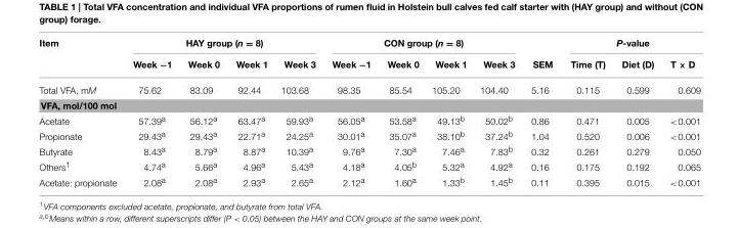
<table><thead><tr><td rowspan="2">Item</td><td colspan="4">HAY group (n = 8)</td><td colspan="4">CON group (n = 8)</td><td rowspan="2">SEM</td><td colspan="3">P-value</td></tr><tr><td>Week −1</td><td>Week 0</td><td>Week 1</td><td>Week 3</td><td>Week −1</td><td>Week 0</td><td>Week 1</td><td>Week 3</td><td>Time (T)</td><td>Diet (D)</td><td>T × D</td></tr></thead><tbody><tr><td>Total VFA, mM</td><td>75.62</td><td>83.09</td><td>92.44</td><td>103.68</td><td>98.35</td><td>85.54</td><td>105.20</td><td>104.40</td><td>5.16</td><td>0.115</td><td>0.599</td><td>0.609</td></tr><tr><td colspan="13">VFA, mol/100 mol</td></tr><tr><td>Acetate</td><td>57.39<sup>a</sup></td><td>56.12<sup>a</sup></td><td>63.47<sup>a</sup></td><td>59.93<sup>a</sup></td><td>56.05<sup>a</sup></td><td>53.58<sup>a</sup></td><td>49.13<sup>b</sup></td><td>50.02<sup>b</sup></td><td>0.86</td><td>0.471</td><td>0.005</td><td>&lt;0.001</td></tr><tr><td>Propionate</td><td>29.43<sup>a</sup></td><td>29.43<sup>a</sup></td><td>22.71<sup>a</sup></td><td>24.25<sup>a</sup></td><td>30.01<sup>a</sup></td><td>35.07<sup>a</sup></td><td>38.10<sup>b</sup></td><td>37.24<sup>b</sup></td><td>1.04</td><td>0.520</td><td>0.006</td><td>&lt;0.001</td></tr><tr><td>Butyrate</td><td>8.43<sup>a</sup></td><td>8.79<sup>a</sup></td><td>8.87<sup>a</sup></td><td>10.39<sup>a</sup></td><td>9.76<sup>a</sup></td><td>7.30<sup>a</sup></td><td>7.46<sup>a</sup></td><td>7.83<sup>b</sup></td><td>0.32</td><td>0.261</td><td>0.279</td><td>0.050</td></tr><tr><td>Others<sup>1</sup></td><td>4.74<sup>a</sup></td><td>5.66<sup>a</sup></td><td>4.96<sup>a</sup></td><td>5.43<sup>a</sup></td><td>4.18<sup>a</sup></td><td>4.05<sup>b</sup></td><td>5.32<sup>a</sup></td><td>4.92<sup>a</sup></td><td>0.16</td><td>0.175</td><td>0.192</td><td>0.065</td></tr><tr><td>Acetate: propionate</td><td>2.08<sup>a</sup></td><td>2.08<sup>a</sup></td><td>2.93<sup>a</sup></td><td>2.65<sup>a</sup></td><td>2.12<sup>a</sup></td><td>1.60<sup>a</sup></td><td>1.33<sup>b</sup></td><td>1.45<sup>b</sup></td><td>0.11</td><td>0.395</td><td>0.015</td><td>&lt;0.001</td></tr></tbody></table>